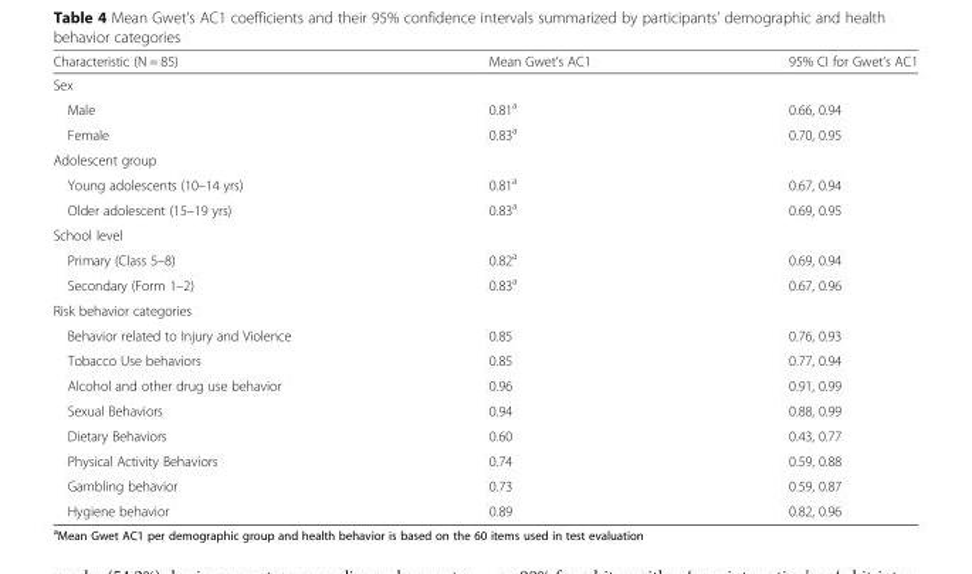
<table><thead><tr><td>Characteristic (N = 85)</td><td>Mean Gwet’s AC1</td><td>95% CI for Gwet’s AC1</td></tr></thead><tbody><tr><td colspan="3">Sex</td></tr><tr><td>Male</td><td>0.81<sup>a</sup></td><td>0.66, 0.94</td></tr><tr><td>Female</td><td>0.83<sup>a</sup></td><td>0.70, 0.95</td></tr><tr><td colspan="3">Adolescent group</td></tr><tr><td>Young adolescents (10–14 yrs)</td><td>0.81<sup>a</sup></td><td>0.67, 0.94</td></tr><tr><td>Older adolescent (15–19 yrs)</td><td>0.83<sup>a</sup></td><td>0.69, 0.95</td></tr><tr><td colspan="3">School level</td></tr><tr><td>Primary (Class 5–8)</td><td>0.82<sup>a</sup></td><td>0.69, 0.94</td></tr><tr><td>Secondary (Form 1–2)</td><td>0.83<sup>a</sup></td><td>0.67, 0.96</td></tr><tr><td colspan="3">Risk behavior categories</td></tr><tr><td>Behavior related to Injury and Violence</td><td>0.85</td><td>0.76, 0.93</td></tr><tr><td>Tobacco Use behaviors</td><td>0.85</td><td>0.77, 0.94</td></tr><tr><td>Alcohol and other drug use behavior</td><td>0.96</td><td>0.91, 0.99</td></tr><tr><td>Sexual Behaviors</td><td>0.94</td><td>0.88, 0.99</td></tr><tr><td>Dietary Behaviors</td><td>0.60</td><td>0.43, 0.77</td></tr><tr><td>Physical Activity Behaviors</td><td>0.74</td><td>0.59, 0.88</td></tr><tr><td>Gambling behavior</td><td>0.73</td><td>0.59, 0.87</td></tr><tr><td>Hygiene behavior</td><td>0.89</td><td>0.82, 0.96</td></tr></tbody></table>